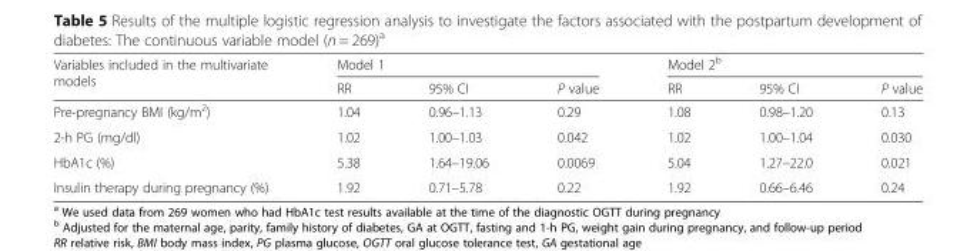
<table><thead><tr><td rowspan="2">Variables included in the multivariate models</td><td colspan="3">Model 1</td><td colspan="3">Model 2<sup>b</sup></td></tr><tr><td>RR</td><td>95% CI</td><td>P value</td><td>RR</td><td>95% CI</td><td>P value</td></tr></thead><tbody><tr><td>Pre-pregnancy BMI (kg/m<sup>2</sup>)</td><td>1.04</td><td>0.96–1.13</td><td>0.29</td><td>1.08</td><td>0.98–1.20</td><td>0.13</td></tr><tr><td>2-h PG (mg/dl)</td><td>1.02</td><td>1.00–1.03</td><td>0.042</td><td>1.02</td><td>1.00–1.04</td><td>0.030</td></tr><tr><td>HbA1c (%)</td><td>5.38</td><td>1.64–19.06</td><td>0.0069</td><td>5.04</td><td>1.27–22.0</td><td>0.021</td></tr><tr><td>Insulin therapy during pregnancy (%)</td><td>1.92</td><td>0.71–5.78</td><td>0.22</td><td>1.92</td><td>0.66–6.46</td><td>0.24</td></tr></tbody></table>